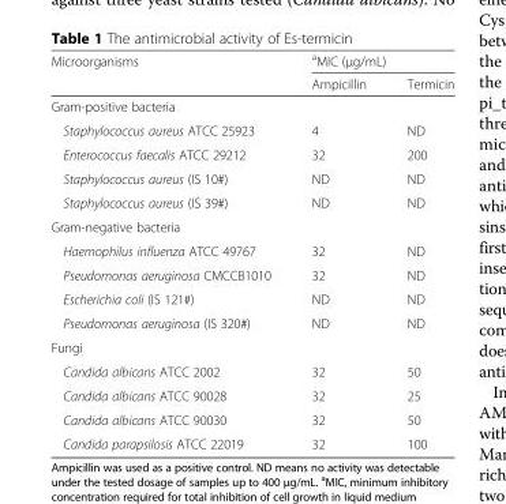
<table><thead><tr><td rowspan="2">Microorganisms</td><td colspan="2"><sup>a</sup>MIC (μg/mL)</td></tr><tr><td>Ampicillin</td><td>Termicin</td></tr></thead><tbody><tr><td colspan="3">Gram-positive bacteria</td></tr><tr><td>Staphylococcus aureus ATCC 25923</td><td>4</td><td>ND</td></tr><tr><td>Enterococcus faecalis ATCC 29212</td><td>32</td><td>200</td></tr><tr><td>Staphylococcus aureus (IS 10#)</td><td>ND</td><td>ND</td></tr><tr><td>Staphylococcus aureus (IS 39#)</td><td>ND</td><td>ND</td></tr><tr><td colspan="3">Gram-negative bacteria</td></tr><tr><td>Haemophilus influenza ATCC 49767</td><td>32</td><td>ND</td></tr><tr><td>Pseudomonas aeruginosa CMCCB1010</td><td>32</td><td>ND</td></tr><tr><td>Escherichia coli (IS 121#)</td><td>ND</td><td>ND</td></tr><tr><td>Pseudomonas aeruginosa (IS 320#)</td><td>ND</td><td>ND</td></tr><tr><td colspan="3">Fungi</td></tr><tr><td>Candida albicans ATCC 2002</td><td>32</td><td>50</td></tr><tr><td>Candida albicans ATCC 90028</td><td>32</td><td>25</td></tr><tr><td>Candida albicans ATCC 90030</td><td>32</td><td>50</td></tr><tr><td>Candida parapsilosis ATCC 22019</td><td>32</td><td>100</td></tr></tbody></table>